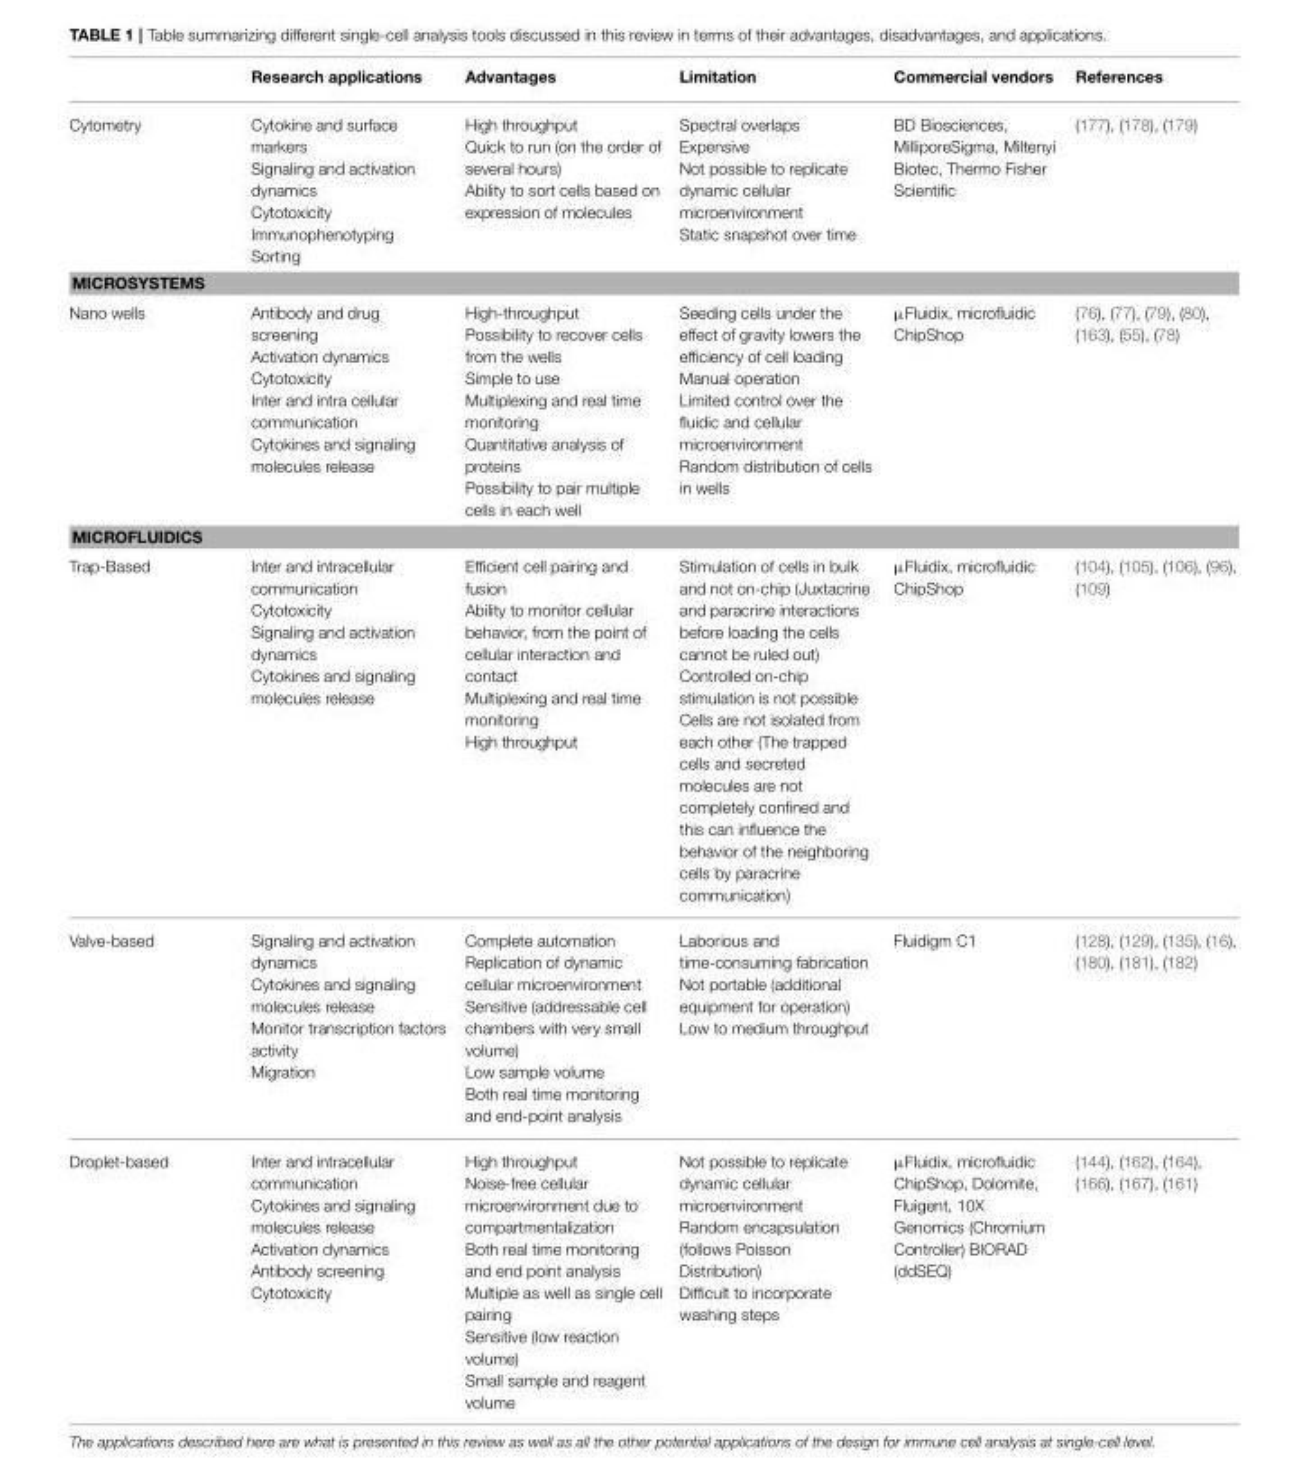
<table><thead><tr><td></td><td>Research applications</td><td>Advantages</td><td>Limitation</td><td>Commercial vendors</td><td>References</td></tr></thead><tbody><tr><td>Cytometry</td><td>Cytokine and surface markers Signaling and activation dynamics Cytotoxicity Immunophenotyping Sorting</td><td>High throughput Quick to run (on the order of several hours) Ability to sort cells based on expression of molecules</td><td>Spectral overlaps Expensive Not possible to replicate dynamic cellular microenvironment Static snapshot over time</td><td>BD Biosciences, MilliporeSigma, Miltenyi Biotec, Thermo Fisher Scientific</td><td>(177), (178), (179)</td></tr><tr><td colspan="6">MICROSYSTEMS</td></tr><tr><td>Nano wells</td><td>Antibody and drug screening Activation dynamics Cytotoxicity Inter and intra cellular communication Cytokines and signaling molecules release</td><td>High-throughput Possibility to recover cells from the wells Simple to use Multiplexing and real time monitoring Quantitative analysis of proteins Possibility to pair multiple cells in each well</td><td>Seeding cells under the effect of gravity lowers the efficiency of cell loading Manual operation Limited control over the fluidic and cellular microenvironment Random distribution of cells in wells</td><td>µFluidix, microfluidic ChipShop</td><td>(76), (77), (79), (80), (163), (55), (78)</td></tr><tr><td colspan="6">MICROFLUIDICS</td></tr><tr><td>Trap-Based</td><td>Inter and intracellular communication Cytotoxicity Signaling and activation dynamics Cytokines and signaling molecules release</td><td>Efficient cell pairing and fusion Ability to monitor cellular behavior, from the point of cellular interaction and contact Multiplexing and real time monitoring High throughput</td><td>Stimulation of cells in bulk and not on-chip (Juxtacrine and paracrine interactions before loading the cells cannot be ruled out) Controlled on-chip stimulation is not possible Cells are not isolated from each other (The trapped cells and secreted molecules are not completely confined and this can influence the behavior of the neighboring cells by paracrine communication)</td><td>µFluidix, microfluidic ChipShop</td><td>(104), (105), (106), (96), (109)</td></tr><tr><td>Valve-based</td><td>Signaling and activation dynamics Cytokines and signaling molecules release Monitor transcription factors activity Migration</td><td>Complete automation Replication of dynamic cellular microenvironment Sensitive (addressable cell chambers with very small volume) Low sample volume Both real time monitoring and end-point analysis</td><td>Laborious and time-consuming fabrication Not portable (additional equipment for operation) Low to medium throughput</td><td>Fluidigm C1</td><td>(128), (129), (135), (16), (180), (181), (182)</td></tr><tr><td>Droplet-based</td><td>Inter and intracellular communication Cytokines and signaling molecules release Activation dynamics Antibody screening Cytotoxicity</td><td>High throughput Noise-free cellular microenvironment due to compartmentalization Both real time monitoring and end point analysis Multiple as well as single cell pairing Sensitive (low reaction volume) Small sample and reagent volume</td><td>Not possible to replicate dynamic cellular microenvironment Random encapsulation (follows Poisson Distribution) Difficult to incorporate washing steps</td><td>µFluidix, microfluidic ChipShop, Dolomite, Fluigent, 10X Genomics (Chromium Controller) BIORAD (ddSEQ)</td><td>(144), (162), (164), (166), (167), (161)</td></tr></tbody></table>